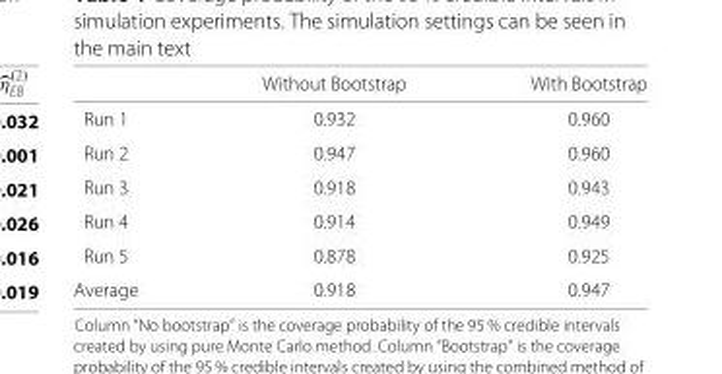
<table><thead><tr><td></td><td>Without Bootstrap</td><td>With Bootstrap</td></tr></thead><tbody><tr><td>Run 1</td><td>0.932</td><td>0.960</td></tr><tr><td>Run 2</td><td>0.947</td><td>0.960</td></tr><tr><td>Run 3</td><td>0.918</td><td>0.943</td></tr><tr><td>Run 4</td><td>0.914</td><td>0.949</td></tr><tr><td>Run 5</td><td>0.878</td><td>0.925</td></tr><tr><td>Average</td><td>0.918</td><td>0.947</td></tr></tbody></table>